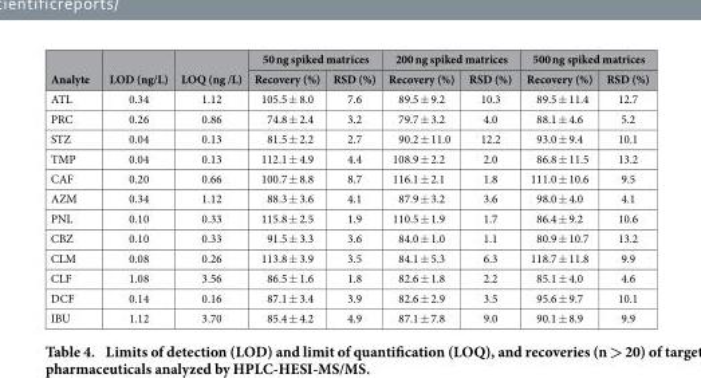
<table><thead><tr><td rowspan="2">Analyte</td><td rowspan="2">LOD (ng/L)</td><td rowspan="2">LOQ (ng /L)</td><td colspan="2">50 ng spiked matrices</td><td colspan="2">200 ng spiked matrices</td><td colspan="2">500 ng spiked matrices</td></tr><tr><td>Recovery (%)</td><td>RSD (%)</td><td>Recovery (%)</td><td>RSD (%)</td><td>Recovery (%)</td><td>RSD (%)</td></tr></thead><tbody><tr><td>ATL</td><td>0.34</td><td>1.12</td><td>105.5 ± 8.0</td><td>7.6</td><td>89.5 ± 9.2</td><td>10.3</td><td>89.5 ± 11.4</td><td>12.7</td></tr><tr><td>PRC</td><td>0.26</td><td>0.86</td><td>74.8 ± 2.4</td><td>3.2</td><td>79.7 ± 3.2</td><td>4.0</td><td>88.1 ± 4.6</td><td>5.2</td></tr><tr><td>STZ</td><td>0.04</td><td>0.13</td><td>81.5 ± 2.2</td><td>2.7</td><td>90.2 ± 11.0</td><td>12.2</td><td>93.0 ± 9.4</td><td>10.1</td></tr><tr><td>TMP</td><td>0.04</td><td>0.13</td><td>112.1 ± 4.9</td><td>4.4</td><td>108.9 ± 2.2</td><td>2.0</td><td>86.8 ± 11.5</td><td>13.2</td></tr><tr><td>CAF</td><td>0.20</td><td>0.66</td><td>100.7 ± 8.8</td><td>8.7</td><td>116.1 ± 2.1</td><td>1.8</td><td>111.0 ± 10.6</td><td>9.5</td></tr><tr><td>AZM</td><td>0.34</td><td>1.12</td><td>88.3 ± 3.6</td><td>4.1</td><td>87.9 ± 3.2</td><td>3.6</td><td>98.0 ± 4.0</td><td>4.1</td></tr><tr><td>PNL</td><td>0.10</td><td>0.33</td><td>115.8 ± 2.5</td><td>1.9</td><td>110.5 ± 1.9</td><td>1.7</td><td>86.4 ± 9.2</td><td>10.6</td></tr><tr><td>CBZ</td><td>0.10</td><td>0.33</td><td>91.5 ± 3.3</td><td>3.6</td><td>84.0 ± 1.0</td><td>1.1</td><td>80.9 ± 10.7</td><td>13.2</td></tr><tr><td>CLM</td><td>0.08</td><td>0.26</td><td>113.8 ± 3.9</td><td>3.5</td><td>84.1 ± 5.3</td><td>6.3</td><td>118.7 ± 11.8</td><td>9.9</td></tr><tr><td>CLF</td><td>1.08</td><td>3.56</td><td>86.5 ± 1.6</td><td>1.8</td><td>82.6 ± 1.8</td><td>2.2</td><td>85.1 ± 4.0</td><td>4.6</td></tr><tr><td>DCF</td><td>0.14</td><td>0.16</td><td>87.1 ± 3.4</td><td>3.9</td><td>82.6 ± 2.9</td><td>3.5</td><td>95.6 ± 9.7</td><td>10.1</td></tr><tr><td>IBU</td><td>1.12</td><td>3.70</td><td>85.4 ± 4.2</td><td>4.9</td><td>87.1 ± 7.8</td><td>9.0</td><td>90.1 ± 8.9</td><td>9.9</td></tr></tbody></table>